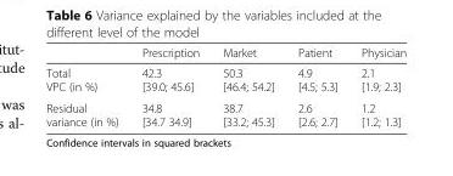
<table><thead><tr><td></td><td>Prescription</td><td>Market</td><td>Patient</td><td>Physician</td></tr></thead><tbody><tr><td>Total VPC (in %)</td><td>42.3 [39.0; 45.6]</td><td>50.3 [46.4; 54.2]</td><td>4.9 [4.5; 5.3]</td><td>2.1 [1.9; 2.3]</td></tr><tr><td>Residual variance (in %)</td><td>34.8 [34.7 34.9]</td><td>38.7 [33.2; 45.3]</td><td>2.6 [2.6; 2.7]</td><td>1.2 [1.2; 1.3]</td></tr></tbody></table>